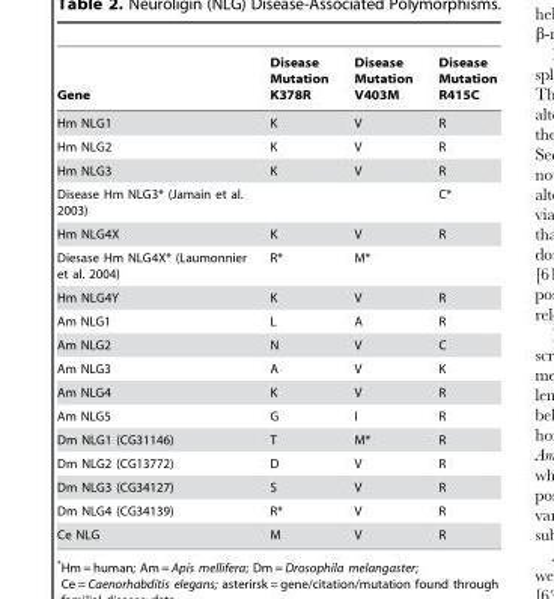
<table><thead><tr><td>Gene</td><td>Disease Mutation K378R</td><td>Disease Mutation V403M</td><td>Disease Mutation R415C</td></tr></thead><tbody><tr><td>Hm NLG1</td><td>K</td><td>V</td><td>R</td></tr><tr><td>Hm NLG2</td><td>K</td><td>V</td><td>R</td></tr><tr><td>Hm NLG3</td><td>K</td><td>V</td><td>R</td></tr><tr><td>Disease Hm NLG3* (Jamain et al. 2003)</td><td></td><td></td><td>C*</td></tr><tr><td>Hm NLG4X</td><td>K</td><td>V</td><td>R</td></tr><tr><td>Diesase Hm NLG4X* (Laumonnier et al. 2004)</td><td>R*</td><td>M*</td><td></td></tr><tr><td>Hm NLG4Y</td><td>K</td><td>V</td><td>R</td></tr><tr><td>Am NLG1</td><td>L</td><td>A</td><td>R</td></tr><tr><td>Am NLG2</td><td>N</td><td>V</td><td>C</td></tr><tr><td>Am NLG3</td><td>A</td><td>V</td><td>K</td></tr><tr><td>Am NLG4</td><td>K</td><td>V</td><td>R</td></tr><tr><td>Am NLG5</td><td>G</td><td>I</td><td>R</td></tr><tr><td>Dm NLG1 (CG31146)</td><td>T</td><td>M*</td><td>R</td></tr><tr><td>Dm NLG2 (CG13772)</td><td>D</td><td>V</td><td>R</td></tr><tr><td>Dm NLG3 (CG34127)</td><td>S</td><td>V</td><td>R</td></tr><tr><td>Dm NLG4 (CG34139)</td><td>R*</td><td>V</td><td>R</td></tr><tr><td>Ce NLG</td><td>M</td><td>V</td><td>R</td></tr></tbody></table>